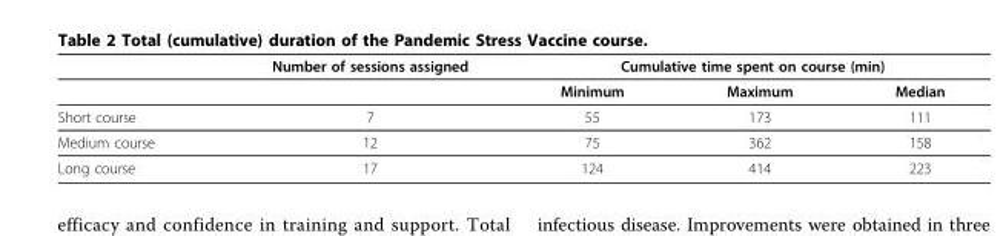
<table><thead><tr><td rowspan="2"></td><td rowspan="2">Number of sessions assigned</td><td colspan="3">Cumulative time spent on course (min)</td></tr><tr><td>Minimum</td><td>Maximum</td><td>Median</td></tr></thead><tbody><tr><td>Short course</td><td>7</td><td>55</td><td>173</td><td>111</td></tr><tr><td>Medium course</td><td>12</td><td>75</td><td>362</td><td>158</td></tr><tr><td>Long course</td><td>17</td><td>124</td><td>414</td><td>223</td></tr></tbody></table>